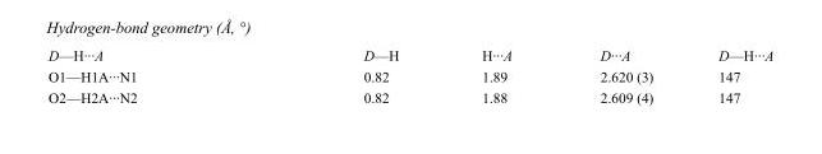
<table><tbody><tr><td>D—H···A</td><td>D—H</td><td>H···A</td><td>D···A</td><td>D—H···A</td></tr><tr><td>O1—H1A···N1</td><td>0.82</td><td>1.89</td><td>2.620 (3)</td><td>147</td></tr><tr><td>O2—H2A···N2</td><td>0.82</td><td>1.88</td><td>2.609 (4)</td><td>147</td></tr></tbody></table>